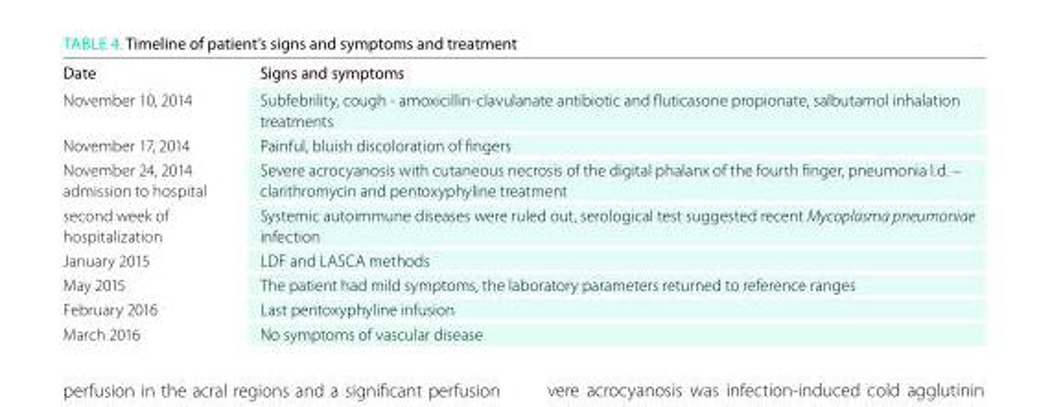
<table><thead><tr><td>Date</td><td>Signs and symptoms</td></tr></thead><tbody><tr><td>November 10, 2014</td><td>Subfebrility, cough - amoxicillin-clavulanate antibiotic and fluticasone propionate, salbutamol inhalation treatments</td></tr><tr><td>November 17, 2014</td><td>Painful, bluish discoloration of fingers</td></tr><tr><td>November 24, 2014 admission to hospital</td><td>Severe acrocyanosis with cutaneous necrosis of the digital phalanx of the fourth finger, pneumonia l.d. – clarithromycin and pentoxyphyline treatment</td></tr><tr><td>second week of hospitalization</td><td>Systemic autoimmune diseases were ruled out, serological test suggested recent Mycoplasma pneumoniae infection</td></tr><tr><td>January 2015</td><td>LDF and LASCA methods</td></tr><tr><td>May 2015</td><td>The patient had mild symptoms, the laboratory parameters returned to reference ranges</td></tr><tr><td>February 2016</td><td>Last pentoxyphyline infusion</td></tr><tr><td>March 2016</td><td>No symptoms of vascular disease</td></tr></tbody></table>